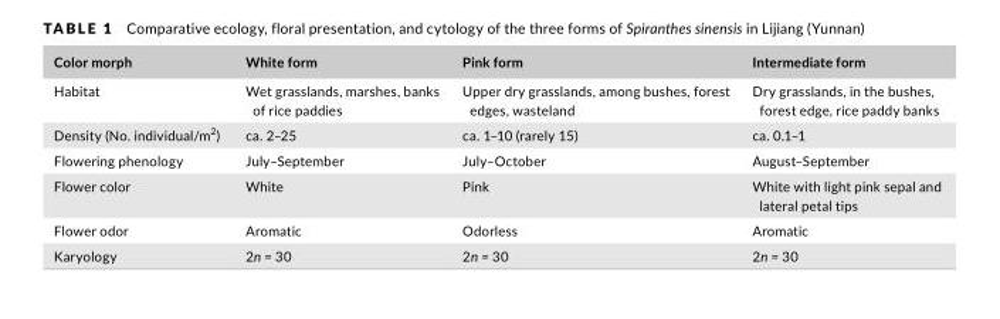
<table><thead><tr><td>Color morph</td><td>White form</td><td>Pink form</td><td>Intermediate form</td></tr></thead><tbody><tr><td>Habitat</td><td>Wet grasslands, marshes, banks of rice paddies</td><td>Upper dry grasslands, among bushes, forest edges, wasteland</td><td>Dry grasslands, in the bushes, forest edge, rice paddy banks</td></tr><tr><td>Density (No. individual/m<sup>2</sup>)</td><td>ca. 2–25</td><td>ca. 1–10 (rarely 15)</td><td>ca. 0.1–1</td></tr><tr><td>Flowering phenology</td><td>July–September</td><td>July–October</td><td>August–September</td></tr><tr><td>Flower color</td><td>White</td><td>Pink</td><td>White with light pink sepal and lateral petal tips</td></tr><tr><td>Flower odor</td><td>Aromatic</td><td>Odorless</td><td>Aromatic</td></tr><tr><td>Karyology</td><td>2n = 30</td><td>2n = 30</td><td>2n = 30</td></tr></tbody></table>